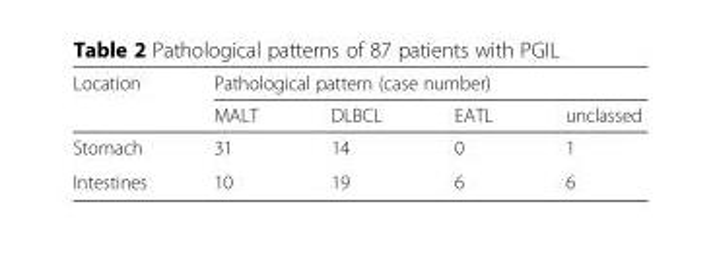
<table><thead><tr><td rowspan="2">Location</td><td colspan="4">Pathological pattern (case number)</td></tr><tr><td>MALT</td><td>DLBCL</td><td>EATL</td><td>unclassed</td></tr></thead><tbody><tr><td>Stomach</td><td>31</td><td>14</td><td>0</td><td>1</td></tr><tr><td>Intestines</td><td>10</td><td>19</td><td>6</td><td>6</td></tr></tbody></table>